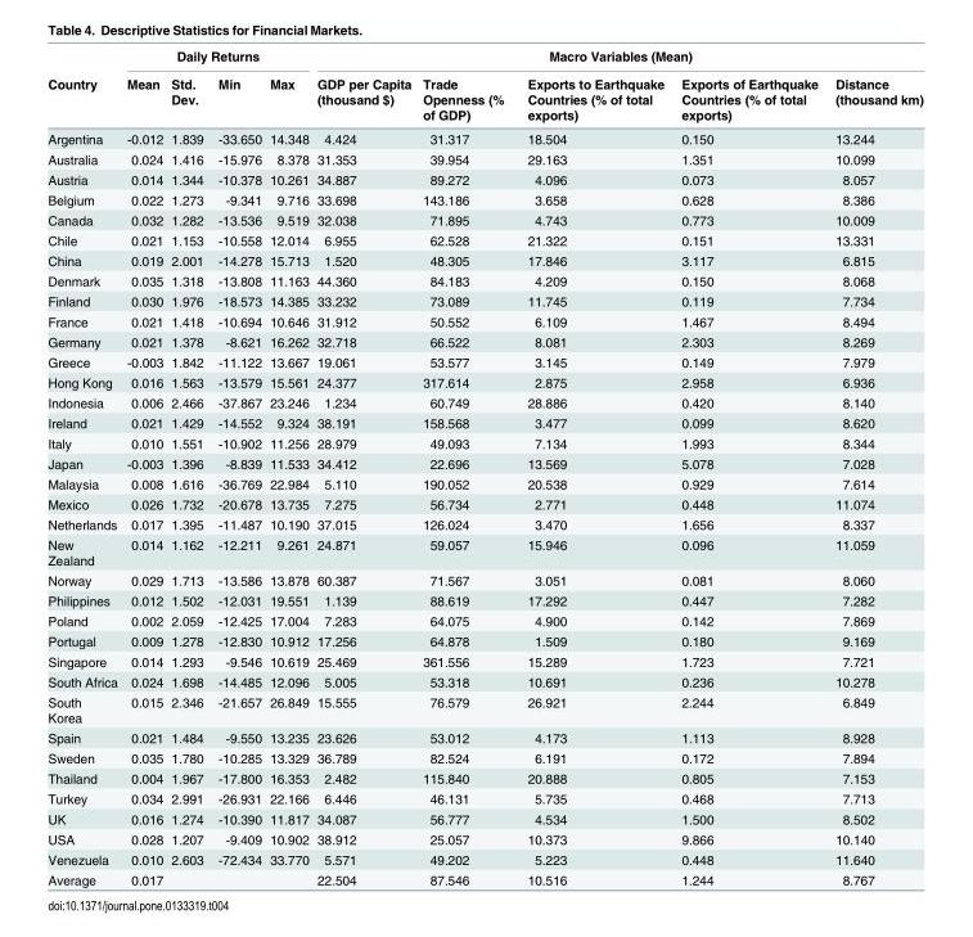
<table><thead><tr><td rowspan="2">Country</td><td colspan="4">Daily Returns</td><td colspan="5">Macro Variables (Mean)</td></tr><tr><td>Mean</td><td>Std. Dev.</td><td>Min</td><td>Max</td><td>GDP per Capita (thousand $)</td><td>Trade Openness (% of GDP)</td><td>Exports to Earthquake Countries (% of total exports)</td><td>Exports of Earthquake Countries (% of total exports)</td><td>Distance (thousand km)</td></tr></thead><tbody><tr><td>Argentina</td><td>-0.012</td><td>1.839</td><td>-33.650</td><td>14.348</td><td>4.424</td><td>31.317</td><td>18.504</td><td>0.150</td><td>13.244</td></tr><tr><td>Australia</td><td>0.024</td><td>1.416</td><td>-15.976</td><td>8.378</td><td>31.353</td><td>39.954</td><td>29.163</td><td>1.351</td><td>10.099</td></tr><tr><td>Austria</td><td>0.014</td><td>1.344</td><td>-10.378</td><td>10.261</td><td>34.887</td><td>89.272</td><td>4.096</td><td>0.073</td><td>8.057</td></tr><tr><td>Belgium</td><td>0.022</td><td>1.273</td><td>-9.341</td><td>9.716</td><td>33.698</td><td>143.186</td><td>3.658</td><td>0.628</td><td>8.386</td></tr><tr><td>Canada</td><td>0.032</td><td>1.282</td><td>-13.536</td><td>9.519</td><td>32.038</td><td>71.895</td><td>4.743</td><td>0.773</td><td>10.009</td></tr><tr><td>Chile</td><td>0.021</td><td>1.153</td><td>-10.558</td><td>12.014</td><td>6.955</td><td>62.528</td><td>21.322</td><td>0.151</td><td>13.331</td></tr><tr><td>China</td><td>0.019</td><td>2.001</td><td>-14.278</td><td>15.713</td><td>1.520</td><td>48.305</td><td>17.846</td><td>3.117</td><td>6.815</td></tr><tr><td>Denmark</td><td>0.035</td><td>1.318</td><td>-13.808</td><td>11.163</td><td>44.360</td><td>84.183</td><td>4.209</td><td>0.150</td><td>8.068</td></tr><tr><td>Finland</td><td>0.030</td><td>1.976</td><td>-18.573</td><td>14.385</td><td>33.232</td><td>73.089</td><td>11.745</td><td>0.119</td><td>7.734</td></tr><tr><td>France</td><td>0.021</td><td>1.418</td><td>-10.694</td><td>10.646</td><td>31.912</td><td>50.552</td><td>6.109</td><td>1.467</td><td>8.494</td></tr><tr><td>Germany</td><td>0.021</td><td>1.378</td><td>-8.621</td><td>16.262</td><td>32.718</td><td>66.522</td><td>8.081</td><td>2.303</td><td>8.269</td></tr><tr><td>Greece</td><td>-0.003</td><td>1.842</td><td>-11.122</td><td>13.667</td><td>19.061</td><td>53.577</td><td>3.145</td><td>0.149</td><td>7.979</td></tr><tr><td>Hong Kong</td><td>0.016</td><td>1.563</td><td>-13.579</td><td>15.561</td><td>24.377</td><td>317.614</td><td>2.875</td><td>2.958</td><td>6.936</td></tr><tr><td>Indonesia</td><td>0.006</td><td>2.466</td><td>-37.867</td><td>23.246</td><td>1.234</td><td>60.749</td><td>28.886</td><td>0.420</td><td>8.140</td></tr><tr><td>Ireland</td><td>0.021</td><td>1.429</td><td>-14.552</td><td>9.324</td><td>38.191</td><td>158.568</td><td>3.477</td><td>0.099</td><td>8.620</td></tr><tr><td>Italy</td><td>0.010</td><td>1.551</td><td>-10.902</td><td>11.256</td><td>28.979</td><td>49.093</td><td>7.134</td><td>1.993</td><td>8.344</td></tr><tr><td>Japan</td><td>-0.003</td><td>1.396</td><td>-8.839</td><td>11.533</td><td>34.412</td><td>22.696</td><td>13.569</td><td>5.078</td><td>7.028</td></tr><tr><td>Malaysia</td><td>0.008</td><td>1.616</td><td>-36.769</td><td>22.984</td><td>5.110</td><td>190.052</td><td>20.538</td><td>0.929</td><td>7.614</td></tr><tr><td>Mexico</td><td>0.026</td><td>1.732</td><td>-20.678</td><td>13.735</td><td>7.275</td><td>56.734</td><td>2.771</td><td>0.448</td><td>11.074</td></tr><tr><td>Netherlands</td><td>0.017</td><td>1.395</td><td>-11.487</td><td>10.190</td><td>37.015</td><td>126.024</td><td>3.470</td><td>1.656</td><td>8.337</td></tr><tr><td>New Zealand</td><td>0.014</td><td>1.162</td><td>-12.211</td><td>9.261</td><td>24.871</td><td>59.057</td><td>15.946</td><td>0.096</td><td>11.059</td></tr><tr><td>Norway</td><td>0.029</td><td>1.713</td><td>-13.586</td><td>13.878</td><td>60.387</td><td>71.567</td><td>3.051</td><td>0.081</td><td>8.060</td></tr><tr><td>Philippines</td><td>0.012</td><td>1.502</td><td>-12.031</td><td>19.551</td><td>1.139</td><td>88.619</td><td>17.292</td><td>0.447</td><td>7.282</td></tr><tr><td>Poland</td><td>0.002</td><td>2.059</td><td>-12.425</td><td>17.004</td><td>7.283</td><td>64.075</td><td>4.900</td><td>0.142</td><td>7.869</td></tr><tr><td>Portugal</td><td>0.009</td><td>1.278</td><td>-12.830</td><td>10.912</td><td>17.256</td><td>64.878</td><td>1.509</td><td>0.180</td><td>9.169</td></tr><tr><td>Singapore</td><td>0.014</td><td>1.293</td><td>-9.546</td><td>10.619</td><td>25.469</td><td>361.556</td><td>15.289</td><td>1.723</td><td>7.721</td></tr><tr><td>South Africa</td><td>0.024</td><td>1.698</td><td>-14.485</td><td>12.096</td><td>5.005</td><td>53.318</td><td>10.691</td><td>0.236</td><td>10.278</td></tr><tr><td>South Korea</td><td>0.015</td><td>2.346</td><td>-21.657</td><td>26.849</td><td>15.555</td><td>76.579</td><td>26.921</td><td>2.244</td><td>6.849</td></tr><tr><td>Spain</td><td>0.021</td><td>1.484</td><td>-9.550</td><td>13.235</td><td>23.626</td><td>53.012</td><td>4.173</td><td>1.113</td><td>8.928</td></tr><tr><td>Sweden</td><td>0.035</td><td>1.780</td><td>-10.285</td><td>13.329</td><td>36.789</td><td>82.524</td><td>6.191</td><td>0.172</td><td>7.894</td></tr><tr><td>Thailand</td><td>0.004</td><td>1.967</td><td>-17.800</td><td>16.353</td><td>2.482</td><td>115.840</td><td>20.888</td><td>0.805</td><td>7.153</td></tr><tr><td>Turkey</td><td>0.034</td><td>2.991</td><td>-26.931</td><td>22.166</td><td>6.446</td><td>46.131</td><td>5.735</td><td>0.468</td><td>7.713</td></tr><tr><td>UK</td><td>0.016</td><td>1.274</td><td>-10.390</td><td>11.817</td><td>34.087</td><td>56.777</td><td>4.534</td><td>1.500</td><td>8.502</td></tr><tr><td>USA</td><td>0.028</td><td>1.207</td><td>-9.409</td><td>10.902</td><td>38.912</td><td>25.057</td><td>10.373</td><td>9.866</td><td>10.140</td></tr><tr><td>Venezuela</td><td>0.010</td><td>2.603</td><td>-72.434</td><td>33.770</td><td>5.571</td><td>49.202</td><td>5.223</td><td>0.448</td><td>11.640</td></tr><tr><td>Average</td><td>0.017</td><td></td><td></td><td></td><td>22.504</td><td>87.546</td><td>10.516</td><td>1.244</td><td>8.767</td></tr></tbody></table>